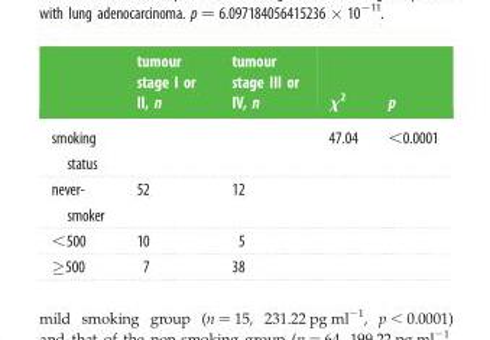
<table><thead><tr><td></td><td>tumour stage I or II, n</td><td>tumour stage III or IV, n</td><td>χ<sup>2</sup></td><td>p</td></tr></thead><tbody><tr><td>smoking status</td><td></td><td></td><td>47.04</td><td>&lt;0.0001</td></tr><tr><td>never- smoker</td><td>52</td><td>12</td><td></td><td></td></tr><tr><td>&lt;500</td><td>10</td><td>5</td><td></td><td></td></tr><tr><td>≥500</td><td>7</td><td>38</td><td></td><td></td></tr></tbody></table>